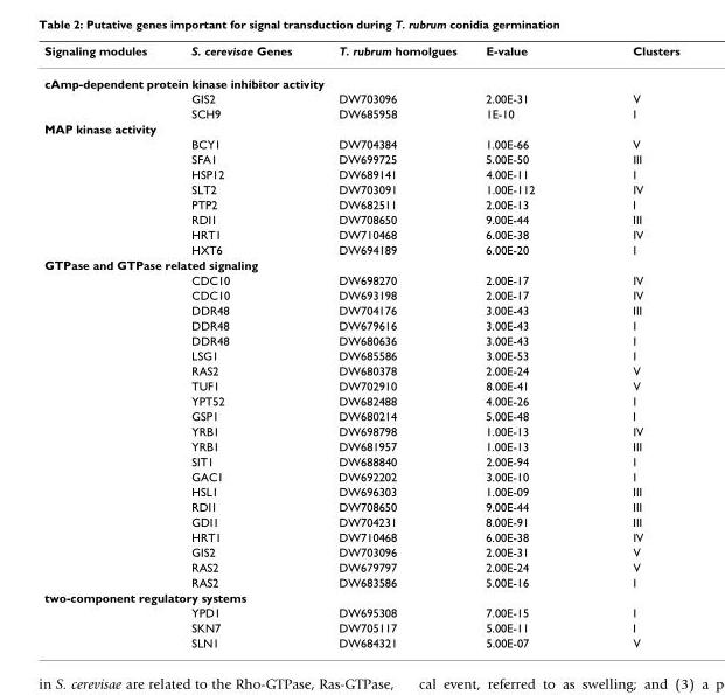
<table><thead><tr><td>Signaling modules</td><td>S. cerevisae Genes</td><td>T. rubrum homolgues</td><td>E-value</td><td>Clusters</td></tr></thead><tbody><tr><td colspan="5">cAmp-dependent protein kinase inhibitor activity</td></tr><tr><td></td><td>GIS2</td><td>DW703096</td><td>2.00E-31</td><td>V</td></tr><tr><td></td><td>SCH9</td><td>DW685958</td><td>1E-10</td><td>I</td></tr><tr><td colspan="5">MAP kinase activity</td></tr><tr><td></td><td>BCY1</td><td>DW704384</td><td>1.00E-66</td><td>V</td></tr><tr><td></td><td>SFA1</td><td>DW699725</td><td>5.00E-50</td><td>III</td></tr><tr><td></td><td>HSP12</td><td>DW689141</td><td>4.00E-11</td><td>I</td></tr><tr><td></td><td>SLT2</td><td>DW703091</td><td>1.00E-112</td><td>IV</td></tr><tr><td></td><td>PTP2</td><td>DW682511</td><td>2.00E-13</td><td>I</td></tr><tr><td></td><td>RDI1</td><td>DW708650</td><td>9.00E-44</td><td>III</td></tr><tr><td></td><td>HRT1</td><td>DW710468</td><td>6.00E-38</td><td>IV</td></tr><tr><td></td><td>HXT6</td><td>DW694189</td><td>6.00E-20</td><td>I</td></tr><tr><td colspan="5">GTPase and GTPase related signaling</td></tr><tr><td></td><td>CDC10</td><td>DW698270</td><td>2.00E-17</td><td>IV</td></tr><tr><td></td><td>CDC10</td><td>DW693198</td><td>2.00E-17</td><td>IV</td></tr><tr><td></td><td>DDR48</td><td>DW704176</td><td>3.00E-43</td><td>III</td></tr><tr><td></td><td>DDR48</td><td>DW679616</td><td>3.00E-43</td><td>I</td></tr><tr><td></td><td>DDR48</td><td>DW680636</td><td>3.00E-43</td><td>I</td></tr><tr><td></td><td>LSG1</td><td>DW685586</td><td>3.00E-53</td><td>I</td></tr><tr><td></td><td>RAS2</td><td>DW680378</td><td>2.00E-24</td><td>V</td></tr><tr><td></td><td>TUF1</td><td>DW702910</td><td>8.00E-41</td><td>V</td></tr><tr><td></td><td>YPT52</td><td>DW682488</td><td>4.00E-26</td><td>I</td></tr><tr><td></td><td>GSP1</td><td>DW680214</td><td>5.00E-48</td><td>I</td></tr><tr><td></td><td>YRB1</td><td>DW698798</td><td>1.00E-13</td><td>IV</td></tr><tr><td></td><td>YRB1</td><td>DW681957</td><td>1.00E-13</td><td>III</td></tr><tr><td></td><td>SIT1</td><td>DW688840</td><td>2.00E-94</td><td>I</td></tr><tr><td></td><td>GAC1</td><td>DW692202</td><td>3.00E-10</td><td>I</td></tr><tr><td></td><td>HSL1</td><td>DW696303</td><td>1.00E-09</td><td>III</td></tr><tr><td></td><td>RDI1</td><td>DW708650</td><td>9.00E-44</td><td>III</td></tr><tr><td></td><td>GDI1</td><td>DW704231</td><td>8.00E-91</td><td>III</td></tr><tr><td></td><td>HRT1</td><td>DW710468</td><td>6.00E-38</td><td>IV</td></tr><tr><td></td><td>GIS2</td><td>DW703096</td><td>2.00E-31</td><td>V</td></tr><tr><td></td><td>RAS2</td><td>DW679797</td><td>2.00E-24</td><td>V</td></tr><tr><td></td><td>RAS2</td><td>DW683586</td><td>5.00E-16</td><td>I</td></tr><tr><td colspan="5">two-component regulatory systems</td></tr><tr><td></td><td>YPD1</td><td>DW695308</td><td>7.00E-15</td><td>I</td></tr><tr><td></td><td>SKN7</td><td>DW705117</td><td>5.00E-11</td><td>I</td></tr><tr><td></td><td>SLN1</td><td>DW684321</td><td>5.00E-07</td><td>V</td></tr></tbody></table>